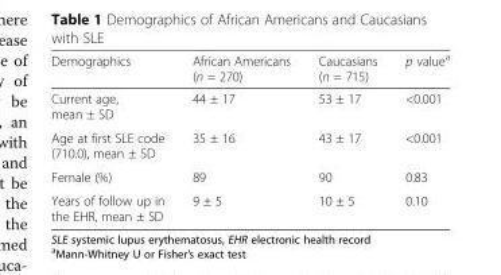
<table><thead><tr><td>Demographics</td><td>African Americans (n = 270)</td><td>Caucasians (n = 715)</td><td>p value<sup>a</sup></td></tr></thead><tbody><tr><td>Current age, mean ± SD</td><td>44 ± 17</td><td>53 ± 17</td><td>&lt;0.001</td></tr><tr><td>Age at first SLE code (710.0), mean ± SD</td><td>35 ± 16</td><td>43 ± 17</td><td>&lt;0.001</td></tr><tr><td>Female (%)</td><td>89</td><td>90</td><td>0.83</td></tr><tr><td>Years of follow up in the EHR, mean ± SD</td><td>9 ± 5</td><td>10 ± 5</td><td>0.10</td></tr></tbody></table>